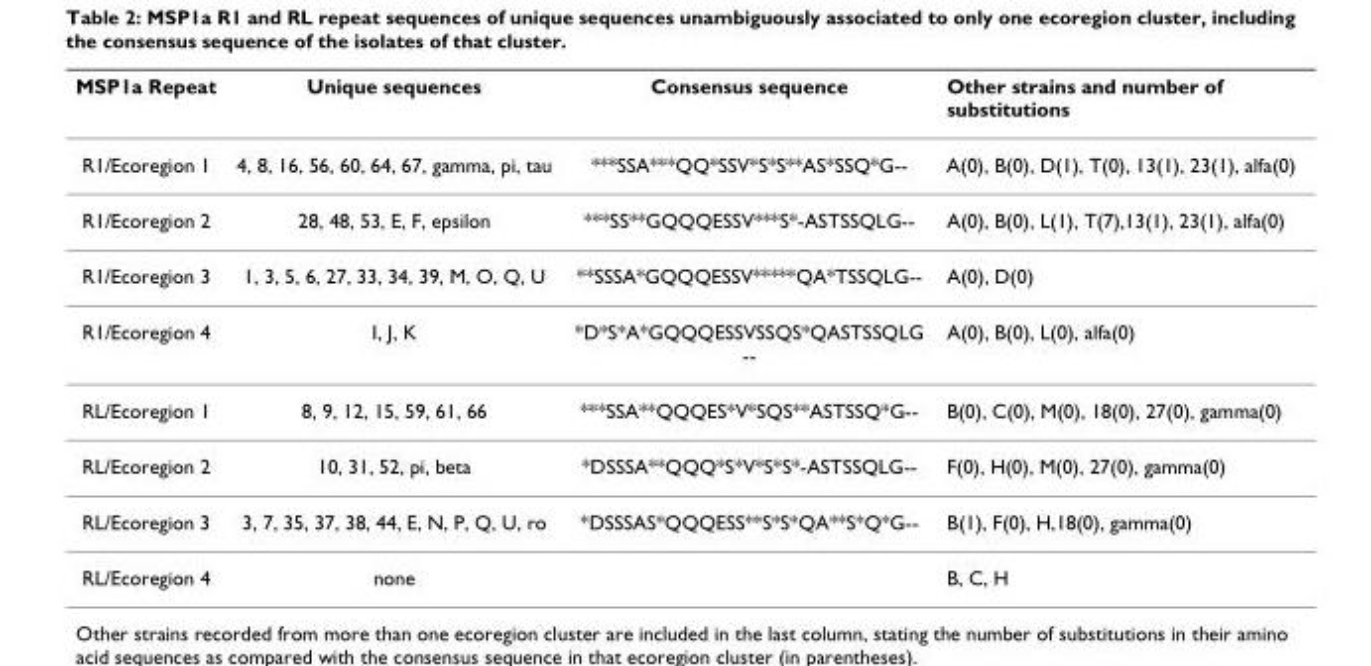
<table><thead><tr><td>MSP1a Repeat</td><td>Unique sequences</td><td>Consensus sequence</td><td>Other strains and number of substitutions</td></tr></thead><tbody><tr><td>R1/Ecoregion 1</td><td>4, 8, 16, 56, 60, 64, 67, gamma, pi, tau</td><td>***SSA***QQ*SSV*S*S**AS*SSQ*G--</td><td>A(0), B(0), D(1), T(0), 13(1), 23(1), alfa(0)</td></tr><tr><td>R1/Ecoregion 2</td><td>28, 48, 53, E, F, epsilon</td><td>***SS**GQQQESSV***S*-ASTSSQLG--</td><td>A(0), B(0), L(1), T(7),13(1), 23(1), alfa(0)</td></tr><tr><td>R1/Ecoregion 3</td><td>1, 3, 5, 6, 27, 33, 34, 39, M, O, Q, U</td><td>**SSSA*GQQQESSV*****QA*TSSQLG--</td><td>A(0), D(0)</td></tr><tr><td>R1/Ecoregion 4</td><td>I, J, K</td><td>*D*S*A*GQQQESSVSSQS*QASTSSQLG --</td><td>A(0), B(0), L(0), alfa(0)</td></tr><tr><td>RL/Ecoregion 1</td><td>8, 9, 12, 15, 59, 61, 66</td><td>***SSA**QQQES*V*SQS**ASTSSQ*G--</td><td>B(0), C(0), M(0), 18(0), 27(0), gamma(0)</td></tr><tr><td>RL/Ecoregion 2</td><td>10, 31, 52, pi, beta</td><td>*DSSSA**QQQ*S*V*S*S*-ASTSSQLG--</td><td>F(0), H(0), M(0), 27(0), gamma(0)</td></tr><tr><td>RL/Ecoregion 3</td><td>3, 7, 35, 37, 38, 44, E, N, P, Q, U, ro</td><td>*DSSSAS*QQQESS**S*S*QA**S*Q*G--</td><td>B(1), F(0), H,18(0), gamma(0)</td></tr><tr><td>RL/Ecoregion 4</td><td>none</td><td></td><td>B, C, H</td></tr></tbody></table>